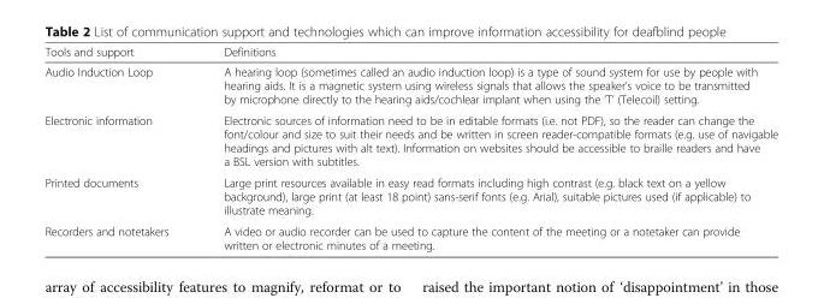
<table><thead><tr><td>Tools and support</td><td>Definitions</td></tr></thead><tbody><tr><td>Audio Induction Loop</td><td>A hearing loop (sometimes called an audio induction loop) is a type of sound system for use by people with hearing aids. It is a magnetic system using wireless signals that allows the speaker’s voice to be transmitted by microphone directly to the hearing aids/cochlear implant when using the ‘T’ (Telecoil) setting.</td></tr><tr><td>Electronic information</td><td>Electronic sources of information need to be in editable formats (i.e. not PDF), so the reader can change the font/colour and size to suit their needs and be written in screen reader-compatible formats (e.g. use of navigable headings and pictures with alt text). Information on websites should be accessible to braille readers and have a BSL version with subtitles.</td></tr><tr><td>Printed documents</td><td>Large print resources available in easy read formats including high contrast (e.g. black text on a yellow background), large print (at least 18 point) sans-serif fonts (e.g. Arial), suitable pictures used (if applicable) to illustrate meaning.</td></tr><tr><td>Recorders and notetakers</td><td>A video or audio recorder can be used to capture the content of the meeting or a notetaker can provide written or electronic minutes of a meeting.</td></tr></tbody></table>